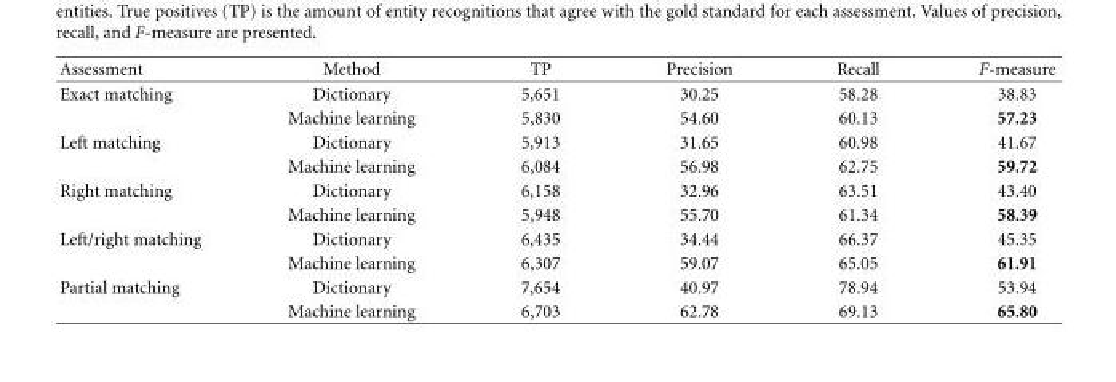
<table><thead><tr><td>Assessment</td><td>Method</td><td>TP</td><td>Precision</td><td>Recall</td><td>F-measure</td></tr></thead><tbody><tr><td rowspan="2">Exact matching</td><td>Dictionary</td><td>5,651</td><td>30.25</td><td>58.28</td><td>38.83</td></tr><tr><td>Machine learning</td><td>5,830</td><td>54.60</td><td>60.13</td><td>57.23</td></tr><tr><td rowspan="2">Left matching</td><td>Dictionary</td><td>5,913</td><td>31.65</td><td>60.98</td><td>41.67</td></tr><tr><td>Machine learning</td><td>6,084</td><td>56.98</td><td>62.75</td><td>59.72</td></tr><tr><td rowspan="2">Right matching</td><td>Dictionary</td><td>6,158</td><td>32.96</td><td>63.51</td><td>43.40</td></tr><tr><td>Machine learning</td><td>5,948</td><td>55.70</td><td>61.34</td><td>58.39</td></tr><tr><td rowspan="2">Left/right matching</td><td>Dictionary</td><td>6,435</td><td>34.44</td><td>66.37</td><td>45.35</td></tr><tr><td>Machine learning</td><td>6,307</td><td>59.07</td><td>65.05</td><td>61.91</td></tr><tr><td rowspan="2">Partial matching</td><td>Dictionary</td><td>7,654</td><td>40.97</td><td>78.94</td><td>53.94</td></tr><tr><td>Machine learning</td><td>6,703</td><td>62.78</td><td>69.13</td><td>65.80</td></tr></tbody></table>